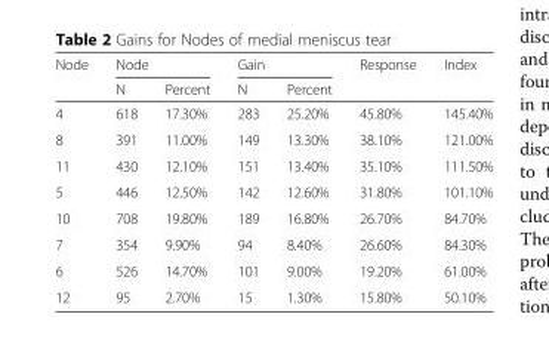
<table><thead><tr><td rowspan="2">Node</td><td colspan="2">Node</td><td colspan="2">Gain</td><td rowspan="2">Response</td><td rowspan="2">Index</td></tr><tr><td>N</td><td>Percent</td><td>N</td><td>Percent</td></tr></thead><tbody><tr><td>4</td><td>618</td><td>17.30%</td><td>283</td><td>25.20%</td><td>45.80%</td><td>145.40%</td></tr><tr><td>8</td><td>391</td><td>11.00%</td><td>149</td><td>13.30%</td><td>38.10%</td><td>121.00%</td></tr><tr><td>11</td><td>430</td><td>12.10%</td><td>151</td><td>13.40%</td><td>35.10%</td><td>111.50%</td></tr><tr><td>5</td><td>446</td><td>12.50%</td><td>142</td><td>12.60%</td><td>31.80%</td><td>101.10%</td></tr><tr><td>10</td><td>708</td><td>19.80%</td><td>189</td><td>16.80%</td><td>26.70%</td><td>84.70%</td></tr><tr><td>7</td><td>354</td><td>9.90%</td><td>94</td><td>8.40%</td><td>26.60%</td><td>84.30%</td></tr><tr><td>6</td><td>526</td><td>14.70%</td><td>101</td><td>9.00%</td><td>19.20%</td><td>61.00%</td></tr><tr><td>12</td><td>95</td><td>2.70%</td><td>15</td><td>1.30%</td><td>15.80%</td><td>50.10%</td></tr></tbody></table>